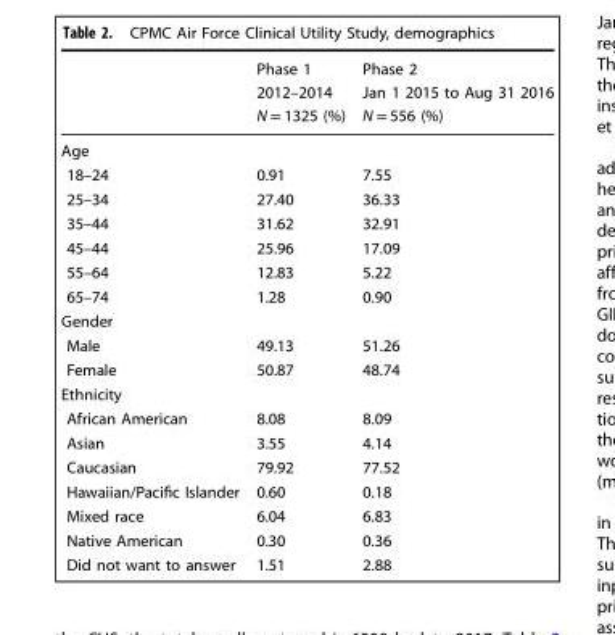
<table><thead><tr><td rowspan="3"></td><td rowspan="3">Phase 1 2012–2014 N = 1325 (%)</td><td rowspan="3">Phase 2 Jan 1 2015 to Aug 31 2016 N = 556 (%)</td></tr><tr></tr><tr></tr></thead><tbody><tr><td colspan="3">Age</td></tr><tr><td>18–24</td><td>0.91</td><td>7.55</td></tr><tr><td>25–34</td><td>27.40</td><td>36.33</td></tr><tr><td>35–44</td><td>31.62</td><td>32.91</td></tr><tr><td>45–44</td><td>25.96</td><td>17.09</td></tr><tr><td>55–64</td><td>12.83</td><td>5.22</td></tr><tr><td>65–74</td><td>1.28</td><td>0.90</td></tr><tr><td colspan="3">Gender</td></tr><tr><td>Male</td><td>49.13</td><td>51.26</td></tr><tr><td>Female</td><td>50.87</td><td>48.74</td></tr><tr><td colspan="3">Ethnicity</td></tr><tr><td>African American</td><td>8.08</td><td>8.09</td></tr><tr><td>Asian</td><td>3.55</td><td>4.14</td></tr><tr><td>Caucasian</td><td>79.92</td><td>77.52</td></tr><tr><td>Hawaiian/Pacific Islander</td><td>0.60</td><td>0.18</td></tr><tr><td>Mixed race</td><td>6.04</td><td>6.83</td></tr><tr><td>Native American</td><td>0.30</td><td>0.36</td></tr><tr><td>Did not want to answer</td><td>1.51</td><td>2.88</td></tr></tbody></table>